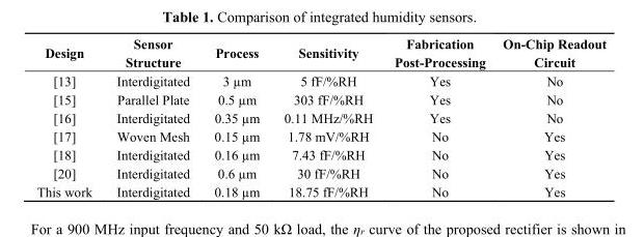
<table><thead><tr><td>Design</td><td>Sensor Structure</td><td>Process</td><td>Sensitivity</td><td>Fabrication Post-Processing</td><td>On-Chip Readout Circuit</td></tr></thead><tbody><tr><td>[13]</td><td>Interdigitated</td><td>3 µm</td><td>5 fF/%RH</td><td>Yes</td><td>No</td></tr><tr><td>[15]</td><td>Parallel Plate</td><td>0.5 µm</td><td>303 fF/%RH</td><td>Yes</td><td>No</td></tr><tr><td>[16]</td><td>Interdigitated</td><td>0.35 µm</td><td>0.11 MHz/%RH</td><td>Yes</td><td>No</td></tr><tr><td>[17]</td><td>Woven Mesh</td><td>0.15 µm</td><td>1.78 mV/%RH</td><td>No</td><td>Yes</td></tr><tr><td>[18]</td><td>Interdigitated</td><td>0.16 µm</td><td>7.43 fF/%RH</td><td>No</td><td>Yes</td></tr><tr><td>[20]</td><td>Interdigitated</td><td>0.6 µm</td><td>30 fF/%RH</td><td>No</td><td>Yes</td></tr><tr><td>This work</td><td>Interdigitated</td><td>0.18 µm</td><td>18.75 fF/%RH</td><td>No</td><td>Yes</td></tr></tbody></table>